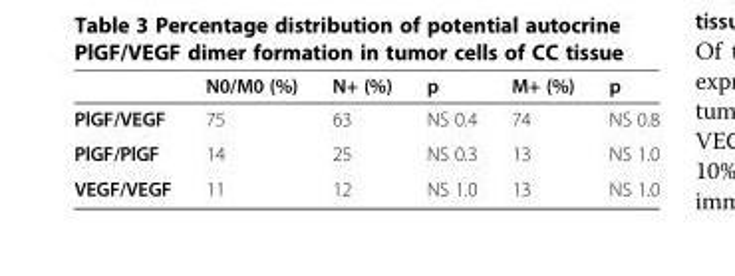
<table><thead><tr><td></td><td>N0/M0 (%)</td><td>N+ (%)</td><td>p</td><td>M+ (%)</td><td>p</td></tr></thead><tbody><tr><td>PlGF/VEGF</td><td>75</td><td>63</td><td>NS 0.4</td><td>74</td><td>NS 0.8</td></tr><tr><td>PlGF/PlGF</td><td>14</td><td>25</td><td>NS 0.3</td><td>13</td><td>NS 1.0</td></tr><tr><td>VEGF/VEGF</td><td>11</td><td>12</td><td>NS 1.0</td><td>13</td><td>NS 1.0</td></tr></tbody></table>